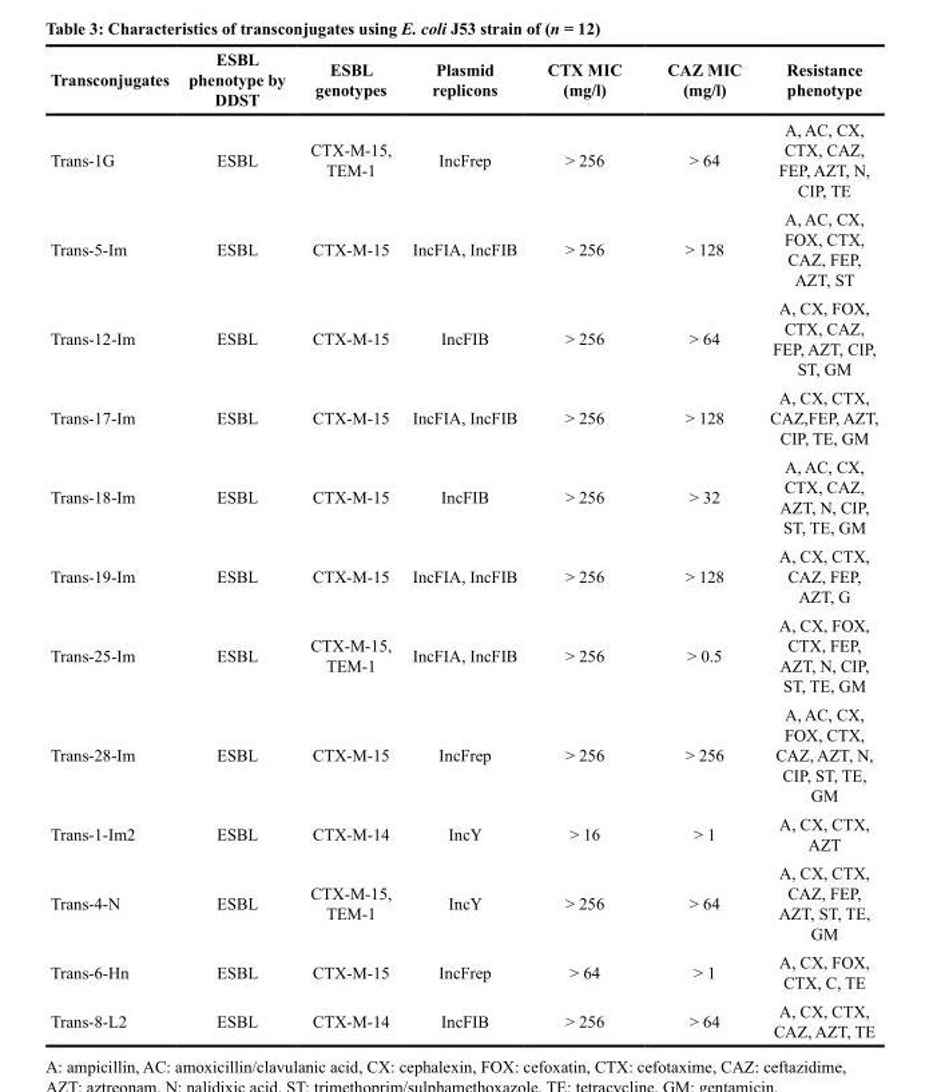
<table><thead><tr><td>Transconjugates</td><td>ESBL phenotype by DDST</td><td>ESBL genotypes</td><td>Plasmid replicons</td><td>CTX MIC (mg/l)</td><td>CAZ MIC (mg/l)</td><td>Resistance phenotype</td></tr></thead><tbody><tr><td>Trans-1G</td><td>ESBL</td><td>CTX-M-15, TEM-1</td><td>IncFrep</td><td>&gt; 256</td><td>&gt; 64</td><td>A, AC, CX, CTX, CAZ, FEP, AZT, N, CIP, TE</td></tr><tr><td>Trans-5-Im</td><td>ESBL</td><td>CTX-M-15</td><td>IncFIA, IncFIB</td><td>&gt; 256</td><td>&gt; 128</td><td>A, AC, CX, FOX, CTX, CAZ, FEP, AZT, ST</td></tr><tr><td>Trans-12-Im</td><td>ESBL</td><td>CTX-M-15</td><td>IncFIB</td><td>&gt; 256</td><td>&gt; 64</td><td>A, CX, FOX, CTX, CAZ, FEP, AZT, CIP, ST, GM</td></tr><tr><td>Trans-17-Im</td><td>ESBL</td><td>CTX-M-15</td><td>IncFIA, IncFIB</td><td>&gt; 256</td><td>&gt; 128</td><td>A, CX, CTX, CAZ,FEP, AZT, CIP, TE, GM</td></tr><tr><td>Trans-18-Im</td><td>ESBL</td><td>CTX-M-15</td><td>IncFIB</td><td>&gt; 256</td><td>&gt; 32</td><td>A, AC, CX, CTX, CAZ, AZT, N, CIP, ST, TE, GM</td></tr><tr><td>Trans-19-Im</td><td>ESBL</td><td>CTX-M-15</td><td>IncFIA, IncFIB</td><td>&gt; 256</td><td>&gt; 128</td><td>A, CX, CTX, CAZ, FEP, AZT, G</td></tr><tr><td>Trans-25-Im</td><td>ESBL</td><td>CTX-M-15, TEM-1</td><td>IncFIA, IncFIB</td><td>&gt; 256</td><td>&gt; 0.5</td><td>A, CX, FOX, CTX, FEP, AZT, N, CIP, ST, TE, GM</td></tr><tr><td>Trans-28-Im</td><td>ESBL</td><td>CTX-M-15</td><td>IncFrep</td><td>&gt; 256</td><td>&gt; 256</td><td>A, AC, CX, FOX, CTX, CAZ, AZT, N, CIP, ST, TE, GM</td></tr><tr><td>Trans-1-Im2</td><td>ESBL</td><td>CTX-M-14</td><td>IncY</td><td>&gt; 16</td><td>&gt; 1</td><td>A, CX, CTX, AZT</td></tr><tr><td>Trans-4-N</td><td>ESBL</td><td>CTX-M-15, TEM-1</td><td>IncY</td><td>&gt; 256</td><td>&gt; 64</td><td>A, CX, CTX, CAZ, FEP, AZT, ST, TE, GM</td></tr><tr><td>Trans-6-Hn</td><td>ESBL</td><td>CTX-M-15</td><td>IncFrep</td><td>&gt; 64</td><td>&gt; 1</td><td>A, CX, FOX, CTX, C, TE</td></tr><tr><td>Trans-8-L2</td><td>ESBL</td><td>CTX-M-14</td><td>IncFIB</td><td>&gt; 256</td><td>&gt; 64</td><td>A, CX, CTX, CAZ, AZT, TE</td></tr></tbody></table>